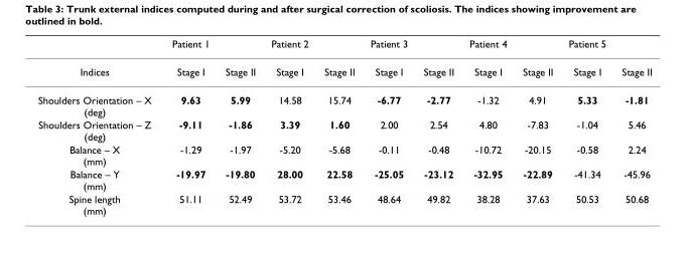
<table><thead><tr><td></td><td>Patient 1</td><td></td><td>Patient 2</td><td></td><td>Patient 3</td><td></td><td>Patient 4</td><td></td><td>Patient 5</td><td></td></tr></thead><tbody><tr><td>Indices</td><td>Stage I</td><td>Stage II</td><td>Stage I</td><td>Stage II</td><td>Stage I</td><td>Stage II</td><td>Stage I</td><td>Stage II</td><td>Stage I</td><td>Stage II</td></tr><tr><td>Shoulders Orientation – X (deg)</td><td>9.63</td><td>5.99</td><td>14.58</td><td>15.74</td><td>-6.77</td><td>-2.77</td><td>-1.32</td><td>4.91</td><td>5.33</td><td>-1.81</td></tr><tr><td>Shoulders Orientation – Z (deg)</td><td>-9.11</td><td>-1.86</td><td>3.39</td><td>1.60</td><td>2.00</td><td>2.54</td><td>4.80</td><td>-7.83</td><td>-1.04</td><td>5.46</td></tr><tr><td>Balance – X (mm)</td><td>-1.29</td><td>-1.97</td><td>-5.20</td><td>-5.68</td><td>-0.11</td><td>-0.48</td><td>-10.72</td><td>-20.15</td><td>-0.58</td><td>2.24</td></tr><tr><td>Balance – Y (mm)</td><td>-19.97</td><td>-19.80</td><td>28.00</td><td>22.58</td><td>-25.05</td><td>-23.12</td><td>-32.95</td><td>-22.89</td><td>-41.34</td><td>-45.96</td></tr><tr><td>Spine length (mm)</td><td>51.11</td><td>52.49</td><td>53.72</td><td>53.46</td><td>48.64</td><td>49.82</td><td>38.28</td><td>37.63</td><td>50.53</td><td>50.68</td></tr></tbody></table>